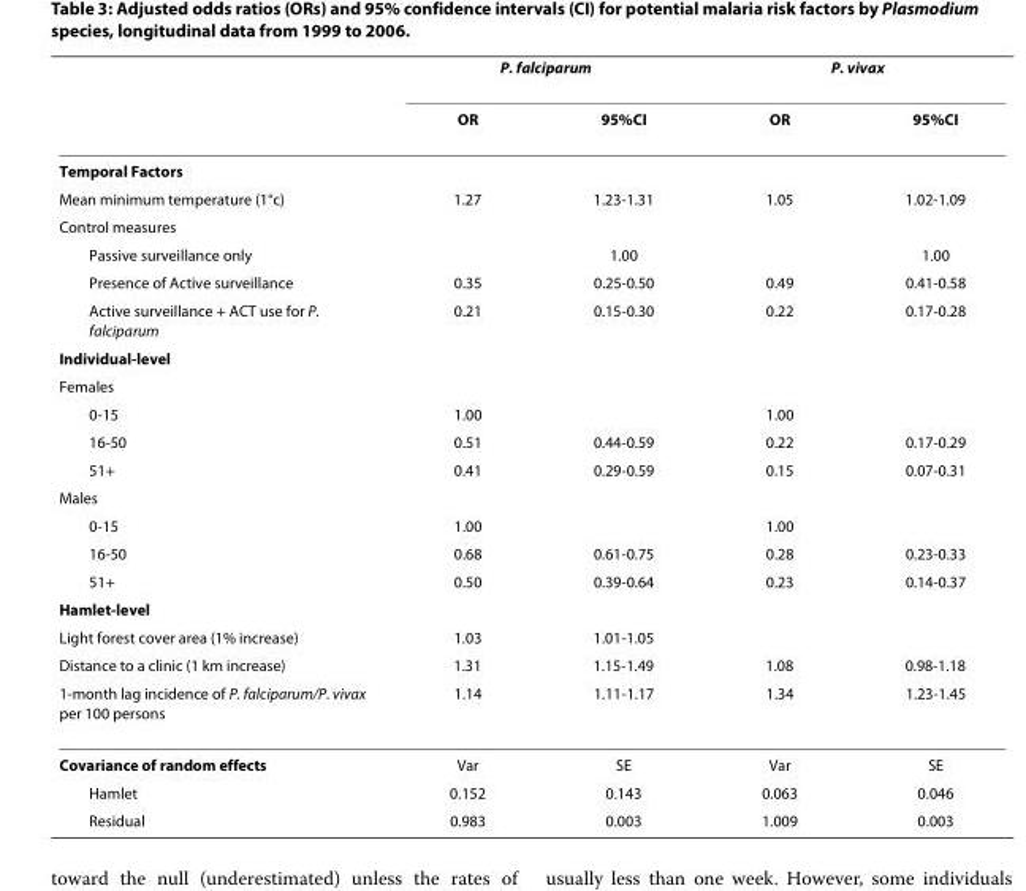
<table><thead><tr><td rowspan="2"></td><td colspan="2">P. falciparum</td><td colspan="2">P. vivax</td></tr><tr><td>OR</td><td>95%CI</td><td>OR</td><td>95%CI</td></tr></thead><tbody><tr><td colspan="5">Temporal Factors</td></tr><tr><td>Mean minimum temperature (1°c)</td><td>1.27</td><td>1.23-1.31</td><td>1.05</td><td>1.02-1.09</td></tr><tr><td colspan="5">Control measures</td></tr><tr><td>Passive surveillance only</td><td></td><td>1.00</td><td></td><td>1.00</td></tr><tr><td>Presence of Active surveillance</td><td>0.35</td><td>0.25-0.50</td><td>0.49</td><td>0.41-0.58</td></tr><tr><td>Active surveillance + ACT use for P. falciparum</td><td>0.21</td><td>0.15-0.30</td><td>0.22</td><td>0.17-0.28</td></tr><tr><td colspan="5">Individual-level</td></tr><tr><td colspan="5">Females</td></tr><tr><td>0-15</td><td>1.00</td><td></td><td>1.00</td><td></td></tr><tr><td>16-50</td><td>0.51</td><td>0.44-0.59</td><td>0.22</td><td>0.17-0.29</td></tr><tr><td>51+</td><td>0.41</td><td>0.29-0.59</td><td>0.15</td><td>0.07-0.31</td></tr><tr><td colspan="5">Males</td></tr><tr><td>0-15</td><td>1.00</td><td></td><td>1.00</td><td></td></tr><tr><td>16-50</td><td>0.68</td><td>0.61-0.75</td><td>0.28</td><td>0.23-0.33</td></tr><tr><td>51+</td><td>0.50</td><td>0.39-0.64</td><td>0.23</td><td>0.14-0.37</td></tr><tr><td colspan="5">Hamlet-level</td></tr><tr><td>Light forest cover area (1% increase)</td><td>1.03</td><td>1.01-1.05</td><td></td><td></td></tr><tr><td>Distance to a clinic (1 km increase)</td><td>1.31</td><td>1.15-1.49</td><td>1.08</td><td>0.98-1.18</td></tr><tr><td>1-month lag incidence of P. falciparum/P. vivax per 100 persons</td><td>1.14</td><td>1.11-1.17</td><td>1.34</td><td>1.23-1.45</td></tr><tr><td>Covariance of random effects</td><td>Var</td><td>SE</td><td>Var</td><td>SE</td></tr><tr><td>Hamlet</td><td>0.152</td><td>0.143</td><td>0.063</td><td>0.046</td></tr><tr><td>Residual</td><td>0.983</td><td>0.003</td><td>1.009</td><td>0.003</td></tr></tbody></table>